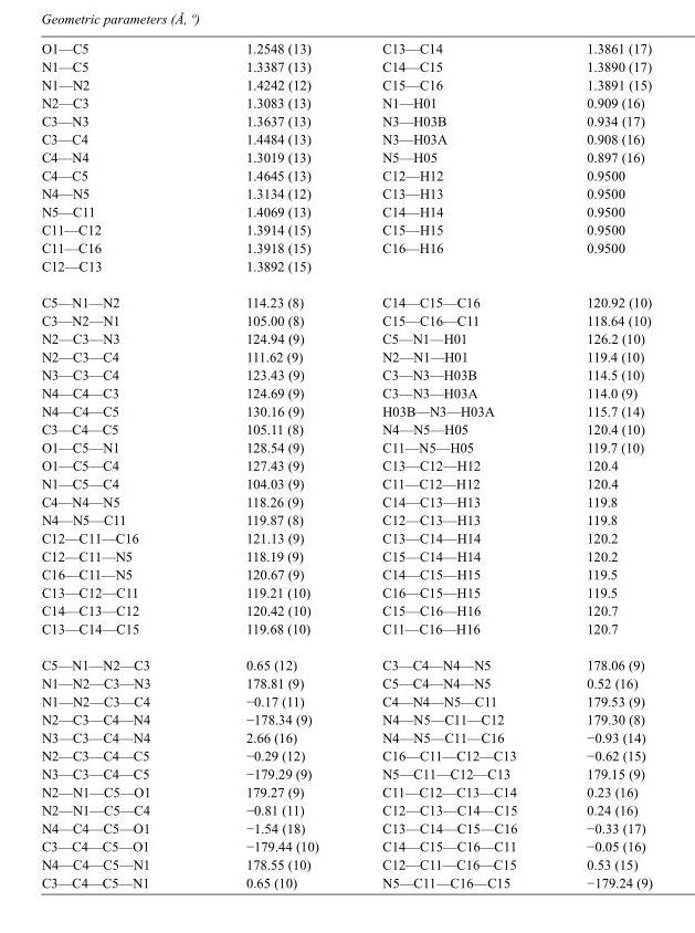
<table><tbody><tr><td>O1—C5</td><td>1.2548 (13)</td><td>C13—C14</td><td>1.3861 (17)</td></tr><tr><td>N1—C5</td><td>1.3387 (13)</td><td>C14—C15</td><td>1.3890 (17)</td></tr><tr><td>N1—N2</td><td>1.4242 (12)</td><td>C15—C16</td><td>1.3891 (15)</td></tr><tr><td>N2—C3</td><td>1.3083 (13)</td><td>N1—H01</td><td>0.909 (16)</td></tr><tr><td>C3—N3</td><td>1.3637 (13)</td><td>N3—H03B</td><td>0.934 (17)</td></tr><tr><td>C3—C4</td><td>1.4484 (13)</td><td>N3—H03A</td><td>0.908 (16)</td></tr><tr><td>C4—N4</td><td>1.3019 (13)</td><td>N5—H05</td><td>0.897 (16)</td></tr><tr><td>C4—C5</td><td>1.4645 (13)</td><td>C12—H12</td><td>0.9500</td></tr><tr><td>N4—N5</td><td>1.3134 (12)</td><td>C13—H13</td><td>0.9500</td></tr><tr><td>N5—C11</td><td>1.4069 (13)</td><td>C14—H14</td><td>0.9500</td></tr><tr><td>C11—C12</td><td>1.3914 (15)</td><td>C15—H15</td><td>0.9500</td></tr><tr><td>C11—C16</td><td>1.3918 (15)</td><td>C16—H16</td><td>0.9500</td></tr><tr><td>C12—C13</td><td>1.3892 (15)</td><td></td><td></td></tr><tr><td>C5—N1—N2</td><td>114.23 (8)</td><td>C14—C15—C16</td><td>120.92 (10)</td></tr><tr><td>C3—N2—N1</td><td>105.00 (8)</td><td>C15—C16—C11</td><td>118.64 (10)</td></tr><tr><td>N2—C3—N3</td><td>124.94 (9)</td><td>C5—N1—H01</td><td>126.2 (10)</td></tr><tr><td>N2—C3—C4</td><td>111.62 (9)</td><td>N2—N1—H01</td><td>119.4 (10)</td></tr><tr><td>N3—C3—C4</td><td>123.43 (9)</td><td>C3—N3—H03B</td><td>114.5 (10)</td></tr><tr><td>N4—C4—C3</td><td>124.69 (9)</td><td>C3—N3—H03A</td><td>114.0 (9)</td></tr><tr><td>N4—C4—C5</td><td>130.16 (9)</td><td>H03B—N3—H03A</td><td>115.7 (14)</td></tr><tr><td>C3—C4—C5</td><td>105.11 (8)</td><td>N4—N5—H05</td><td>120.4 (10)</td></tr><tr><td>O1—C5—N1</td><td>128.54 (9)</td><td>C11—N5—H05</td><td>119.7 (10)</td></tr><tr><td>O1—C5—C4</td><td>127.43 (9)</td><td>C13—C12—H12</td><td>120.4</td></tr><tr><td>N1—C5—C4</td><td>104.03 (9)</td><td>C11—C12—H12</td><td>120.4</td></tr><tr><td>C4—N4—N5</td><td>118.26 (9)</td><td>C14—C13—H13</td><td>119.8</td></tr><tr><td>N4—N5—C11</td><td>119.87 (8)</td><td>C12—C13—H13</td><td>119.8</td></tr><tr><td>C12—C11—C16</td><td>121.13 (9)</td><td>C13—C14—H14</td><td>120.2</td></tr><tr><td>C12—C11—N5</td><td>118.19 (9)</td><td>C15—C14—H14</td><td>120.2</td></tr><tr><td>C16—C11—N5</td><td>120.67 (9)</td><td>C14—C15—H15</td><td>119.5</td></tr><tr><td>C13—C12—C11</td><td>119.21 (10)</td><td>C16—C15—H15</td><td>119.5</td></tr><tr><td>C14—C13—C12</td><td>120.42 (10)</td><td>C15—C16—H16</td><td>120.7</td></tr><tr><td>C13—C14—C15</td><td>119.68 (10)</td><td>C11—C16—H16</td><td>120.7</td></tr><tr><td>C5—N1—N2—C3</td><td>0.65 (12)</td><td>C3—C4—N4—N5</td><td>178.06 (9)</td></tr><tr><td>N1—N2—C3—N3</td><td>178.81 (9)</td><td>C5—C4—N4—N5</td><td>0.52 (16)</td></tr><tr><td>N1—N2—C3—C4</td><td>−0.17 (11)</td><td>C4—N4—N5—C11</td><td>179.53 (9)</td></tr><tr><td>N2—C3—C4—N4</td><td>−178.34 (9)</td><td>N4—N5—C11—C12</td><td>179.30 (8)</td></tr><tr><td>N3—C3—C4—N4</td><td>2.66 (16)</td><td>N4—N5—C11—C16</td><td>−0.93 (14)</td></tr><tr><td>N2—C3—C4—C5</td><td>−0.29 (12)</td><td>C16—C11—C12—C13</td><td>−0.62 (15)</td></tr><tr><td>N3—C3—C4—C5</td><td>−179.29 (9)</td><td>N5—C11—C12—C13</td><td>179.15 (9)</td></tr><tr><td>N2—N1—C5—O1</td><td>179.27 (9)</td><td>C11—C12—C13—C14</td><td>0.23 (16)</td></tr><tr><td>N2—N1—C5—C4</td><td>−0.81 (11)</td><td>C12—C13—C14—C15</td><td>0.24 (16)</td></tr><tr><td>N4—C4—C5—O1</td><td>−1.54 (18)</td><td>C13—C14—C15—C16</td><td>−0.33 (17)</td></tr><tr><td>C3—C4—C5—O1</td><td>−179.44 (10)</td><td>C14—C15—C16—C11</td><td>−0.05 (16)</td></tr><tr><td>N4—C4—C5—N1</td><td>178.55 (10)</td><td>C12—C11—C16—C15</td><td>0.53 (15)</td></tr><tr><td>C3—C4—C5—N1</td><td>0.65 (10)</td><td>N5—C11—C16—C15</td><td>−179.24 (9)</td></tr></tbody></table>